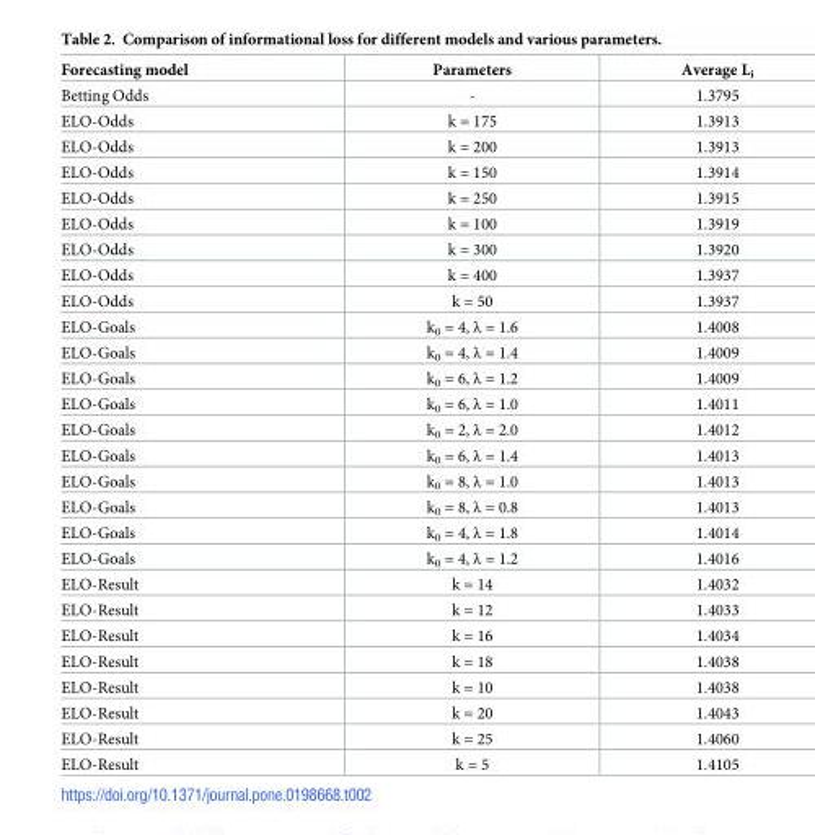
<table><thead><tr><td>Forecasting model</td><td>Parameters</td><td>Average L<sub>i</sub></td></tr></thead><tbody><tr><td>Betting Odds</td><td>-</td><td>1.3795</td></tr><tr><td>ELO-Odds</td><td>k = 175</td><td>1.3913</td></tr><tr><td>ELO-Odds</td><td>k = 200</td><td>1.3913</td></tr><tr><td>ELO-Odds</td><td>k = 150</td><td>1.3914</td></tr><tr><td>ELO-Odds</td><td>k = 250</td><td>1.3915</td></tr><tr><td>ELO-Odds</td><td>k = 100</td><td>1.3919</td></tr><tr><td>ELO-Odds</td><td>k = 300</td><td>1.3920</td></tr><tr><td>ELO-Odds</td><td>k = 400</td><td>1.3937</td></tr><tr><td>ELO-Odds</td><td>k = 50</td><td>1.3937</td></tr><tr><td>ELO-Goals</td><td>k<sub>0</sub> = 4, λ = 1.6</td><td>1.4008</td></tr><tr><td>ELO-Goals</td><td>k<sub>0</sub> = 4, λ = 1.4</td><td>1.4009</td></tr><tr><td>ELO-Goals</td><td>k<sub>0</sub> = 6, λ = 1.2</td><td>1.4009</td></tr><tr><td>ELO-Goals</td><td>k<sub>0</sub> = 6, λ = 1.0</td><td>1.4011</td></tr><tr><td>ELO-Goals</td><td>k<sub>0</sub> = 2, λ = 2.0</td><td>1.4012</td></tr><tr><td>ELO-Goals</td><td>k<sub>0</sub> = 6, λ = 1.4</td><td>1.4013</td></tr><tr><td>ELO-Goals</td><td>k<sub>0</sub> = 8, λ = 1.0</td><td>1.4013</td></tr><tr><td>ELO-Goals</td><td>k<sub>0</sub> = 8, λ = 0.8</td><td>1.4013</td></tr><tr><td>ELO-Goals</td><td>k<sub>0</sub> = 4, λ = 1.8</td><td>1.4014</td></tr><tr><td>ELO-Goals</td><td>k<sub>0</sub> = 4, λ = 1.2</td><td>1.4016</td></tr><tr><td>ELO-Result</td><td>k = 14</td><td>1.4032</td></tr><tr><td>ELO-Result</td><td>k = 12</td><td>1.4033</td></tr><tr><td>ELO-Result</td><td>k = 16</td><td>1.4034</td></tr><tr><td>ELO-Result</td><td>k = 18</td><td>1.4038</td></tr><tr><td>ELO-Result</td><td>k = 10</td><td>1.4038</td></tr><tr><td>ELO-Result</td><td>k = 20</td><td>1.4043</td></tr><tr><td>ELO-Result</td><td>k = 25</td><td>1.4060</td></tr><tr><td>ELO-Result</td><td>k = 5</td><td>1.4105</td></tr></tbody></table>